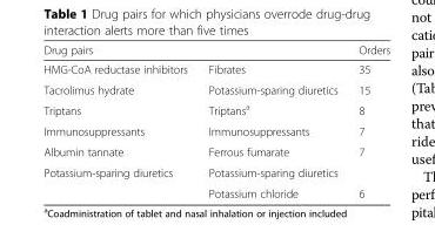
<table><thead><tr><td>Drug pairs</td><td></td><td>Orders</td></tr></thead><tbody><tr><td>HMG-CoA reductase inhibitors</td><td>Fibrates</td><td>35</td></tr><tr><td>Tacrolimus hydrate</td><td>Potassium-sparing diuretics</td><td>15</td></tr><tr><td>Triptans</td><td>Triptans<sup>a</sup></td><td>8</td></tr><tr><td>Immunosuppressants</td><td>Immunosuppressants</td><td>7</td></tr><tr><td>Albumin tannate</td><td>Ferrous fumarate</td><td>7</td></tr><tr><td rowspan="2">Potassium-sparing diuretics</td><td>Potassium-sparing diuretics</td><td></td></tr><tr><td>Potassium chloride</td><td>6</td></tr></tbody></table>